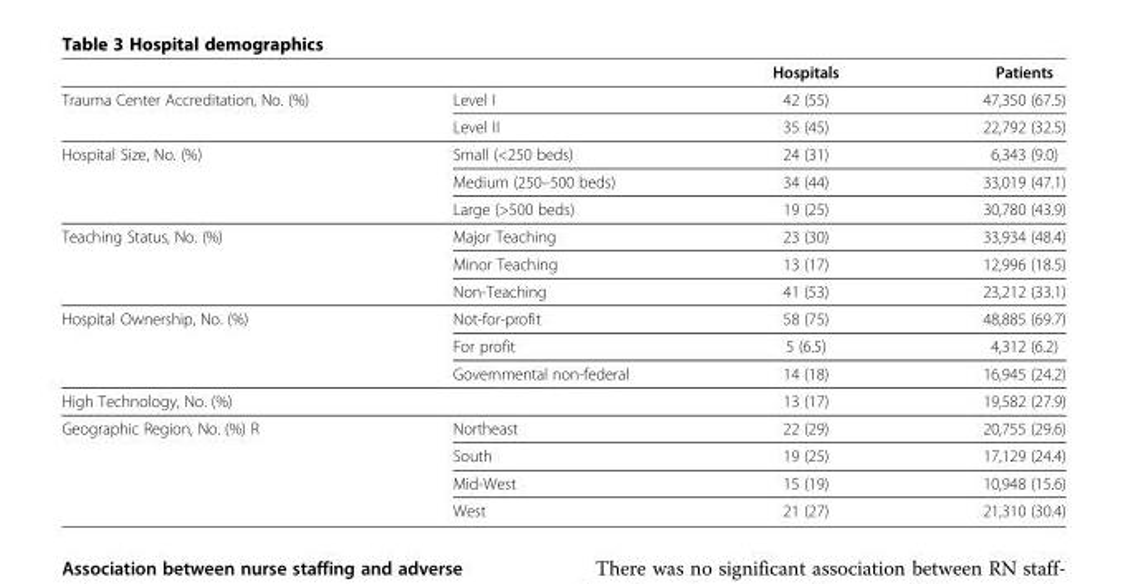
<table><thead><tr><td></td><td></td><td>Hospitals</td><td>Patients</td></tr></thead><tbody><tr><td rowspan="2">Trauma Center Accreditation, No. (%)</td><td>Level I</td><td>42 (55)</td><td>47,350 (67.5)</td></tr><tr><td>Level II</td><td>35 (45)</td><td>22,792 (32.5)</td></tr><tr><td rowspan="3">Hospital Size, No. (%)</td><td>Small (&lt;250 beds)</td><td>24 (31)</td><td>6,343 (9.0)</td></tr><tr><td>Medium (250–500 beds)</td><td>34 (44)</td><td>33,019 (47.1)</td></tr><tr><td>Large (&gt;500 beds)</td><td>19 (25)</td><td>30,780 (43.9)</td></tr><tr><td rowspan="3">Teaching Status, No. (%)</td><td>Major Teaching</td><td>23 (30)</td><td>33,934 (48.4)</td></tr><tr><td>Minor Teaching</td><td>13 (17)</td><td>12,996 (18.5)</td></tr><tr><td>Non-Teaching</td><td>41 (53)</td><td>23,212 (33.1)</td></tr><tr><td rowspan="3">Hospital Ownership, No. (%)</td><td>Not-for-profit</td><td>58 (75)</td><td>48,885 (69.7)</td></tr><tr><td>For profit</td><td>5 (6.5)</td><td>4,312 (6.2)</td></tr><tr><td>Governmental non-federal</td><td>14 (18)</td><td>16,945 (24.2)</td></tr><tr><td>High Technology, No. (%)</td><td></td><td>13 (17)</td><td>19,582 (27.9)</td></tr><tr><td rowspan="4">Geographic Region, No. (%) R</td><td>Northeast</td><td>22 (29)</td><td>20,755 (29.6)</td></tr><tr><td>South</td><td>19 (25)</td><td>17,129 (24.4)</td></tr><tr><td>Mid-West</td><td>15 (19)</td><td>10,948 (15.6)</td></tr><tr><td>West</td><td>21 (27)</td><td>21,310 (30.4)</td></tr></tbody></table>